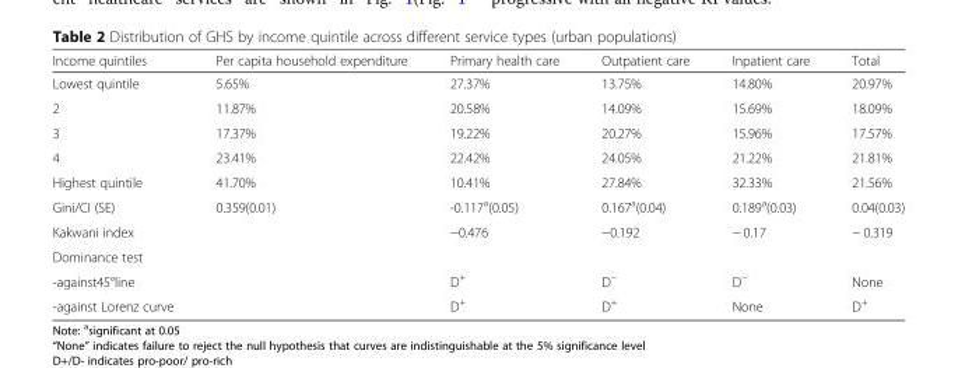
<table><thead><tr><td>Income quintiles</td><td>Per capita household expenditure</td><td>Primary health care</td><td>Outpatient care</td><td>Inpatient care</td><td>Total</td></tr></thead><tbody><tr><td>Lowest quintile</td><td>5.65%</td><td>27.37%</td><td>13.75%</td><td>14.80%</td><td>20.97%</td></tr><tr><td>2</td><td>11.87%</td><td>20.58%</td><td>14.09%</td><td>15.69%</td><td>18.09%</td></tr><tr><td>3</td><td>17.37%</td><td>19.22%</td><td>20.27%</td><td>15.96%</td><td>17.57%</td></tr><tr><td>4</td><td>23.41%</td><td>22.42%</td><td>24.05%</td><td>21.22%</td><td>21.81%</td></tr><tr><td>Highest quintile</td><td>41.70%</td><td>10.41%</td><td>27.84%</td><td>32.33%</td><td>21.56%</td></tr><tr><td>Gini/CI (SE)</td><td>0.359(0.01)</td><td>-0.117<sup>a</sup>(0.05)</td><td>0.167<sup>a</sup>(0.04)</td><td>0.189<sup>a</sup>(0.03)</td><td>0.04(0.03)</td></tr><tr><td>Kakwani index</td><td></td><td>−0.476</td><td>−0.192</td><td>− 0.17</td><td>− 0.319</td></tr><tr><td colspan="6">Dominance test</td></tr><tr><td>-against45°line</td><td></td><td>D<sup>+</sup></td><td>D<sup>−</sup></td><td>D<sup>−</sup></td><td>None</td></tr><tr><td>-against Lorenz curve</td><td></td><td>D<sup>+</sup></td><td>D<sup>+</sup></td><td>None</td><td>D<sup>+</sup></td></tr></tbody></table>